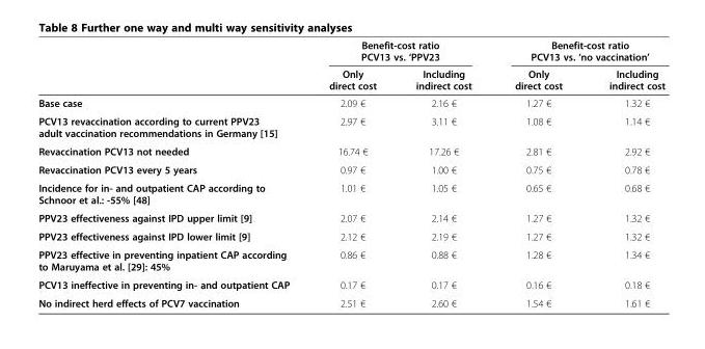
<table><thead><tr><td rowspan="2"></td><td colspan="2">Benefit-cost ratio PCV13 vs. ‘PPV23</td><td colspan="2">Benefit-cost ratio PCV13 vs. ‘no vaccination’</td></tr><tr><td>Only direct cost</td><td>Including indirect cost</td><td>Only direct cost</td><td>Including indirect cost</td></tr></thead><tbody><tr><td>Base case</td><td>2.09 €</td><td>2.16 €</td><td>1.27 €</td><td>1.32 €</td></tr><tr><td>PCV13 revaccination according to current PPV23 adult vaccination recommendations in Germany [15]</td><td>2.97 €</td><td>3.11 €</td><td>1.08 €</td><td>1.14 €</td></tr><tr><td>Revaccination PCV13 not needed</td><td>16.74 €</td><td>17.26 €</td><td>2.81 €</td><td>2.92 €</td></tr><tr><td>Revaccination PCV13 every 5 years</td><td>0.97 €</td><td>1.00 €</td><td>0.75 €</td><td>0.78 €</td></tr><tr><td>Incidence for in- and outpatient CAP according to Schnoor et al.: -55% [48]</td><td>1.01 €</td><td>1.05 €</td><td>0.65 €</td><td>0.68 €</td></tr><tr><td>PPV23 effectiveness against IPD upper limit [9]</td><td>2.07 €</td><td>2.14 €</td><td>1.27 €</td><td>1.32 €</td></tr><tr><td>PPV23 effectiveness against IPD lower limit [9]</td><td>2.12 €</td><td>2.19 €</td><td>1.27 €</td><td>1.32 €</td></tr><tr><td>PPV23 effective in preventing inpatient CAP according to Maruyama et al. [29]: 45%</td><td>0.86 €</td><td>0.88 €</td><td>1.28 €</td><td>1.34 €</td></tr><tr><td>PCV13 ineffective in preventing in- and outpatient CAP</td><td>0.17 €</td><td>0.17 €</td><td>0.16 €</td><td>0.18 €</td></tr><tr><td>No indirect herd effects of PCV7 vaccination</td><td>2.51 €</td><td>2.60 €</td><td>1.54 €</td><td>1.61 €</td></tr></tbody></table>